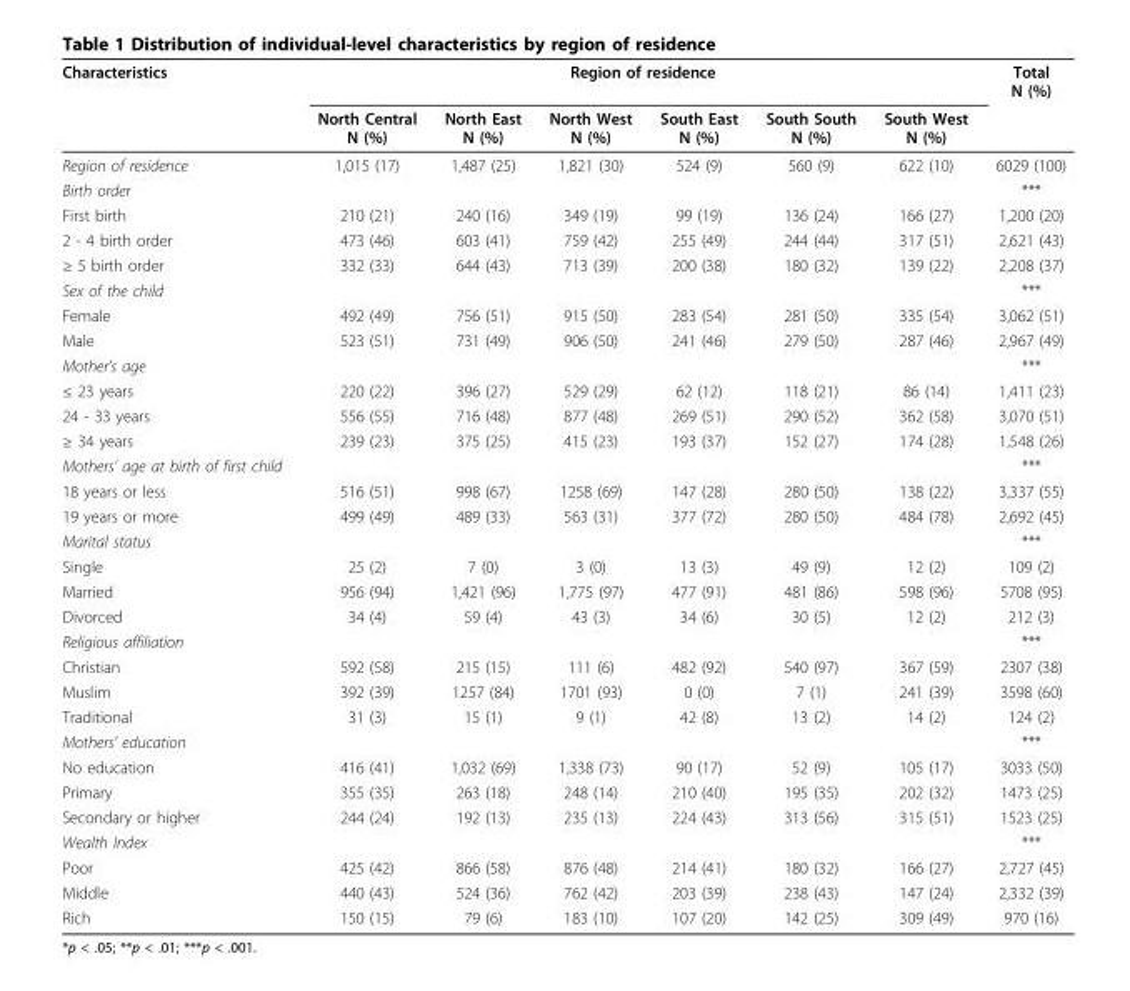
<table><thead><tr><td rowspan="2">Characteristics</td><td colspan="6">Region of residence</td><td rowspan="2">Total N (%)</td></tr><tr><td>North Central N (%)</td><td>North East N (%)</td><td>North West N (%)</td><td>South East N (%)</td><td>South South N (%)</td><td>South West N (%)</td></tr></thead><tbody><tr><td>Region of residence</td><td>1,015 (17)</td><td>1,487 (25)</td><td>1,821 (30)</td><td>524 (9)</td><td>560 (9)</td><td>622 (10)</td><td>6029 (100)</td></tr><tr><td>Birth order</td><td></td><td></td><td></td><td></td><td></td><td></td><td>***</td></tr><tr><td>First birth</td><td>210 (21)</td><td>240 (16)</td><td>349 (19)</td><td>99 (19)</td><td>136 (24)</td><td>166 (27)</td><td>1,200 (20)</td></tr><tr><td>2 - 4 birth order</td><td>473 (46)</td><td>603 (41)</td><td>759 (42)</td><td>255 (49)</td><td>244 (44)</td><td>317 (51)</td><td>2,621 (43)</td></tr><tr><td>≥ 5 birth order</td><td>332 (33)</td><td>644 (43)</td><td>713 (39)</td><td>200 (38)</td><td>180 (32)</td><td>139 (22)</td><td>2,208 (37)</td></tr><tr><td>Sex of the child</td><td></td><td></td><td></td><td></td><td></td><td></td><td>***</td></tr><tr><td>Female</td><td>492 (49)</td><td>756 (51)</td><td>915 (50)</td><td>283 (54)</td><td>281 (50)</td><td>335 (54)</td><td>3,062 (51)</td></tr><tr><td>Male</td><td>523 (51)</td><td>731 (49)</td><td>906 (50)</td><td>241 (46)</td><td>279 (50)</td><td>287 (46)</td><td>2,967 (49)</td></tr><tr><td>Mother’s age</td><td></td><td></td><td></td><td></td><td></td><td></td><td>***</td></tr><tr><td>≤ 23 years</td><td>220 (22)</td><td>396 (27)</td><td>529 (29)</td><td>62 (12)</td><td>118 (21)</td><td>86 (14)</td><td>1,411 (23)</td></tr><tr><td>24 - 33 years</td><td>556 (55)</td><td>716 (48)</td><td>877 (48)</td><td>269 (51)</td><td>290 (52)</td><td>362 (58)</td><td>3,070 (51)</td></tr><tr><td>≥ 34 years</td><td>239 (23)</td><td>375 (25)</td><td>415 (23)</td><td>193 (37)</td><td>152 (27)</td><td>174 (28)</td><td>1,548 (26)</td></tr><tr><td>Mothers’ age at birth of first child</td><td></td><td></td><td></td><td></td><td></td><td></td><td>***</td></tr><tr><td>18 years or less</td><td>516 (51)</td><td>998 (67)</td><td>1258 (69)</td><td>147 (28)</td><td>280 (50)</td><td>138 (22)</td><td>3,337 (55)</td></tr><tr><td>19 years or more</td><td>499 (49)</td><td>489 (33)</td><td>563 (31)</td><td>377 (72)</td><td>280 (50)</td><td>484 (78)</td><td>2,692 (45)</td></tr><tr><td>Marital status</td><td></td><td></td><td></td><td></td><td></td><td></td><td>***</td></tr><tr><td>Single</td><td>25 (2)</td><td>7 (0)</td><td>3 (0)</td><td>13 (3)</td><td>49 (9)</td><td>12 (2)</td><td>109 (2)</td></tr><tr><td>Married</td><td>956 (94)</td><td>1,421 (96)</td><td>1,775 (97)</td><td>477 (91)</td><td>481 (86)</td><td>598 (96)</td><td>5708 (95)</td></tr><tr><td>Divorced</td><td>34 (4)</td><td>59 (4)</td><td>43 (3)</td><td>34 (6)</td><td>30 (5)</td><td>12 (2)</td><td>212 (3)</td></tr><tr><td>Religious affiliation</td><td></td><td></td><td></td><td></td><td></td><td></td><td>***</td></tr><tr><td>Christian</td><td>592 (58)</td><td>215 (15)</td><td>111 (6)</td><td>482 (92)</td><td>540 (97)</td><td>367 (59)</td><td>2307 (38)</td></tr><tr><td>Muslim</td><td>392 (39)</td><td>1257 (84)</td><td>1701 (93)</td><td>0 (0)</td><td>7 (1)</td><td>241 (39)</td><td>3598 (60)</td></tr><tr><td>Traditional</td><td>31 (3)</td><td>15 (1)</td><td>9 (1)</td><td>42 (8)</td><td>13 (2)</td><td>14 (2)</td><td>124 (2)</td></tr><tr><td>Mothers’ education</td><td></td><td></td><td></td><td></td><td></td><td></td><td>***</td></tr><tr><td>No education</td><td>416 (41)</td><td>1,032 (69)</td><td>1,338 (73)</td><td>90 (17)</td><td>52 (9)</td><td>105 (17)</td><td>3033 (50)</td></tr><tr><td>Primary</td><td>355 (35)</td><td>263 (18)</td><td>248 (14)</td><td>210 (40)</td><td>195 (35)</td><td>202 (32)</td><td>1473 (25)</td></tr><tr><td>Secondary or higher</td><td>244 (24)</td><td>192 (13)</td><td>235 (13)</td><td>224 (43)</td><td>313 (56)</td><td>315 (51)</td><td>1523 (25)</td></tr><tr><td>Wealth Index</td><td></td><td></td><td></td><td></td><td></td><td></td><td>***</td></tr><tr><td>Poor</td><td>425 (42)</td><td>866 (58)</td><td>876 (48)</td><td>214 (41)</td><td>180 (32)</td><td>166 (27)</td><td>2,727 (45)</td></tr><tr><td>Middle</td><td>440 (43)</td><td>524 (36)</td><td>762 (42)</td><td>203 (39)</td><td>238 (43)</td><td>147 (24)</td><td>2,332 (39)</td></tr><tr><td>Rich</td><td>150 (15)</td><td>79 (6)</td><td>183 (10)</td><td>107 (20)</td><td>142 (25)</td><td>309 (49)</td><td>970 (16)</td></tr></tbody></table>